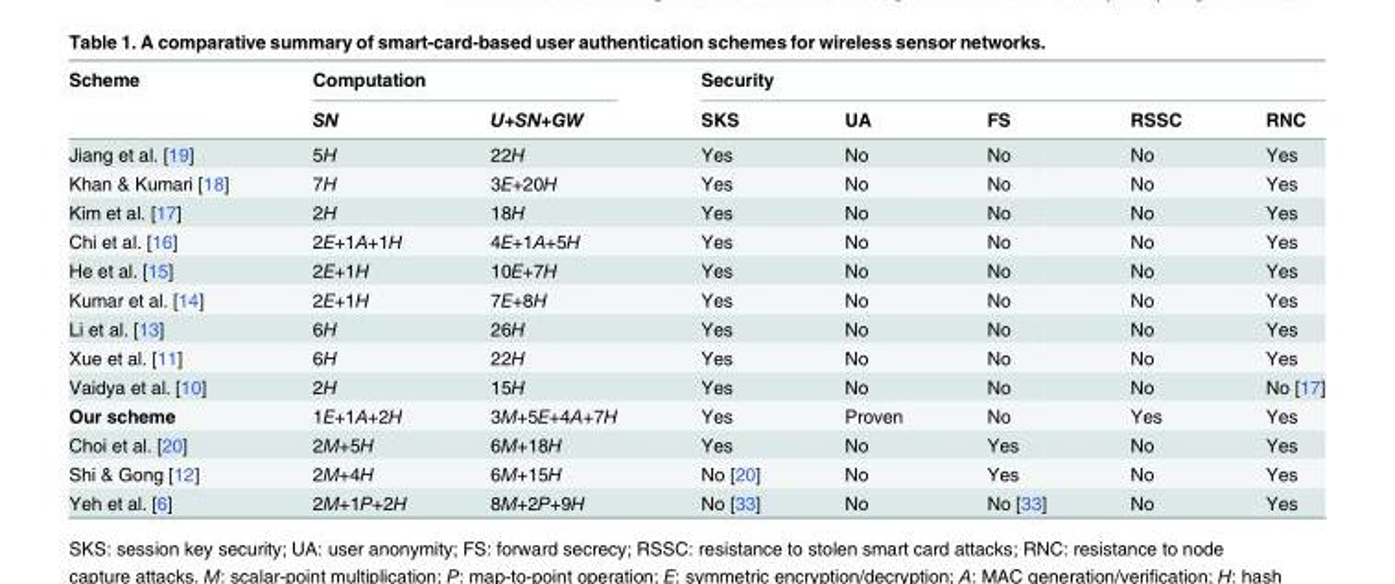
<table><thead><tr><td rowspan="2">Scheme</td><td colspan="2">Computation</td><td colspan="5">Security</td></tr><tr><td>SN</td><td>U+SN+GW</td><td>SKS</td><td>UA</td><td>FS</td><td>RSSC</td><td>RNC</td></tr></thead><tbody><tr><td>Jiang et al. [19]</td><td>5H</td><td>22H</td><td>Yes</td><td>No</td><td>No</td><td>No</td><td>Yes</td></tr><tr><td>Khan &amp; Kumari [18]</td><td>7H</td><td>3E+20H</td><td>Yes</td><td>No</td><td>No</td><td>No</td><td>Yes</td></tr><tr><td>Kim et al. [17]</td><td>2H</td><td>18H</td><td>Yes</td><td>No</td><td>No</td><td>No</td><td>Yes</td></tr><tr><td>Chi et al. [16]</td><td>2E+1A+1H</td><td>4E+1A+5H</td><td>Yes</td><td>No</td><td>No</td><td>No</td><td>Yes</td></tr><tr><td>He et al. [15]</td><td>2E+1H</td><td>10E+7H</td><td>Yes</td><td>No</td><td>No</td><td>No</td><td>Yes</td></tr><tr><td>Kumar et al. [14]</td><td>2E+1H</td><td>7E+8H</td><td>Yes</td><td>No</td><td>No</td><td>No</td><td>Yes</td></tr><tr><td>Li et al. [13]</td><td>6H</td><td>26H</td><td>Yes</td><td>No</td><td>No</td><td>No</td><td>Yes</td></tr><tr><td>Xue et al. [11]</td><td>6H</td><td>22H</td><td>Yes</td><td>No</td><td>No</td><td>No</td><td>Yes</td></tr><tr><td>Vaidya et al. [10]</td><td>2H</td><td>15H</td><td>Yes</td><td>No</td><td>No</td><td>No</td><td>No [17]</td></tr><tr><td>Our scheme</td><td>1E+1A+2H</td><td>3M+5E+4A+7H</td><td>Yes</td><td>Proven</td><td>No</td><td>Yes</td><td>Yes</td></tr><tr><td>Choi et al. [20]</td><td>2M+5H</td><td>6M+18H</td><td>Yes</td><td>No</td><td>Yes</td><td>No</td><td>Yes</td></tr><tr><td>Shi &amp; Gong [12]</td><td>2M+4H</td><td>6M+15H</td><td>No [20]</td><td>No</td><td>Yes</td><td>No</td><td>Yes</td></tr><tr><td>Yeh et al. [6]</td><td>2M+1P+2H</td><td>8M+2P+9H</td><td>No [33]</td><td>No</td><td>No [33]</td><td>No</td><td>Yes</td></tr></tbody></table>